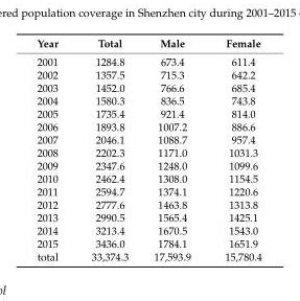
<table><thead><tr><td>Year</td><td>Total</td><td>Male</td><td>Female</td></tr></thead><tbody><tr><td>2001</td><td>1284.8</td><td>673.4</td><td>611.4</td></tr><tr><td>2002</td><td>1357.5</td><td>715.3</td><td>642.2</td></tr><tr><td>2003</td><td>1452.0</td><td>766.6</td><td>685.4</td></tr><tr><td>2004</td><td>1580.3</td><td>836.5</td><td>743.8</td></tr><tr><td>2005</td><td>1735.4</td><td>921.4</td><td>814.0</td></tr><tr><td>2006</td><td>1893.8</td><td>1007.2</td><td>886.6</td></tr><tr><td>2007</td><td>2046.1</td><td>1088.7</td><td>957.4</td></tr><tr><td>2008</td><td>2202.3</td><td>1171.0</td><td>1031.3</td></tr><tr><td>2009</td><td>2347.6</td><td>1248.0</td><td>1099.6</td></tr><tr><td>2010</td><td>2462.4</td><td>1308.0</td><td>1154.5</td></tr><tr><td>2011</td><td>2594.7</td><td>1374.1</td><td>1220.6</td></tr><tr><td>2012</td><td>2777.6</td><td>1463.8</td><td>1313.8</td></tr><tr><td>2013</td><td>2990.5</td><td>1565.4</td><td>1425.1</td></tr><tr><td>2014</td><td>3213.4</td><td>1670.5</td><td>1543.0</td></tr><tr><td>2015</td><td>3436.0</td><td>1784.1</td><td>1651.9</td></tr><tr><td>total</td><td>33,374.3</td><td>17,593.9</td><td>15,780.4</td></tr></tbody></table>